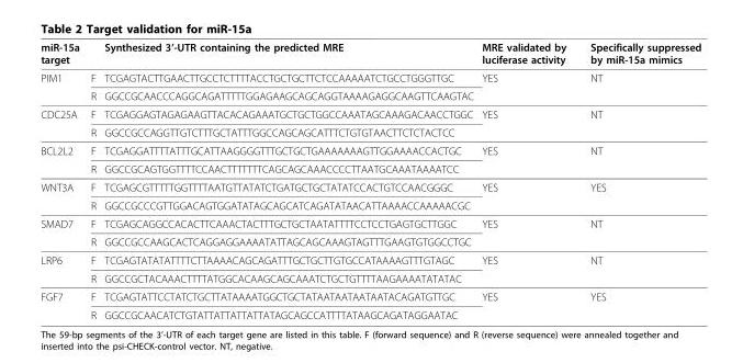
<table><thead><tr><td>miR-15a target</td><td></td><td>Synthesized 3’-UTR containing the predicted MRE</td><td>MRE validated by luciferase activity</td><td>Specifically suppressed by miR-15a mimics</td></tr></thead><tbody><tr><td rowspan="2">PIM1</td><td>F</td><td>TCGAGTACTTGAACTTGCCTCTTTTACCTGCTGCTTCTCCAAAAATCTGCCTGGGTTGC</td><td>YES</td><td>NT</td></tr><tr><td>R</td><td>GGCCGCAACCCAGGCAGATTTTTGGAGAAGCAGCAGGTAAAAGAGGCAAGTTCAAGTAC</td><td></td><td></td></tr><tr><td rowspan="2">CDC25A</td><td>F</td><td>TCGAGGAGTAGAGAAGTTACACAGAAATGCTGCTGGCCAAATAGCAAAGACAACCTGGC</td><td>YES</td><td>NT</td></tr><tr><td>R</td><td>GGCCGCCAGGTTGTCTTTGCTATTTGGCCAGCAGCATTTCTGTGTAACTTCTCTACTCC</td><td></td><td></td></tr><tr><td rowspan="2">BCL2L2</td><td>F</td><td>TCGAGGATTTTATTTGCATTAAGGGGTTTGCTGCTGAAAAAAAGTTGGAAAACCACTGC</td><td>YES</td><td>NT</td></tr><tr><td>R</td><td>GGCCGCAGTGGTTTTCCAACTTTTTTTCAGCAGCAAACCCCTTAATGCAAATAAAATCC</td><td></td><td></td></tr><tr><td rowspan="2">WNT3A</td><td>F</td><td>TCGAGCGTTTTTGGTTTTAATGTTATATCTGATGCTGCTATATCCACTGTCCAACGGGC</td><td>YES</td><td>YES</td></tr><tr><td>R</td><td>GGCCGCCCGTTGGACAGTGGATATAGCAGCATCAGATATAACATTAAAACCAAAAACGC</td><td></td><td></td></tr><tr><td rowspan="2">SMAD7</td><td>F</td><td>TCGAGCAGGCCACACTTCAAACTACTTTGCTGCTAATATTTTCCTCCTGAGTGCTTGGC</td><td>YES</td><td>NT</td></tr><tr><td>R</td><td>GGCCGCCAAGCACTCAGGAGGAAAATATTAGCAGCAAAGTAGTTTGAAGTGTGGCCTGC</td><td></td><td></td></tr><tr><td rowspan="2">LRP6</td><td>F</td><td>TCGAGTATATATTTTCTTAAAACAGCAGATTTGCTGCTTGTGCCATAAAAGTTTGTAGC</td><td>YES</td><td>NT</td></tr><tr><td>R</td><td>GGCCGCTACAAACTTTTATGGCACAAGCAGCAAATCTGCTGTTTTAAGAAAATATATAC</td><td></td><td></td></tr><tr><td rowspan="2">FGF7</td><td>F</td><td>TCGAGTATTCCTATCTGCTTATAAAATGGCTGCTATAATAATAATAATACAGATGTTGC</td><td>YES</td><td>YES</td></tr><tr><td>R</td><td>GGCCGCAACATCTGTATTATTATTATTATAGCAGCCATTTTATAAGCAGATAGGAATAC</td><td></td><td></td></tr></tbody></table>